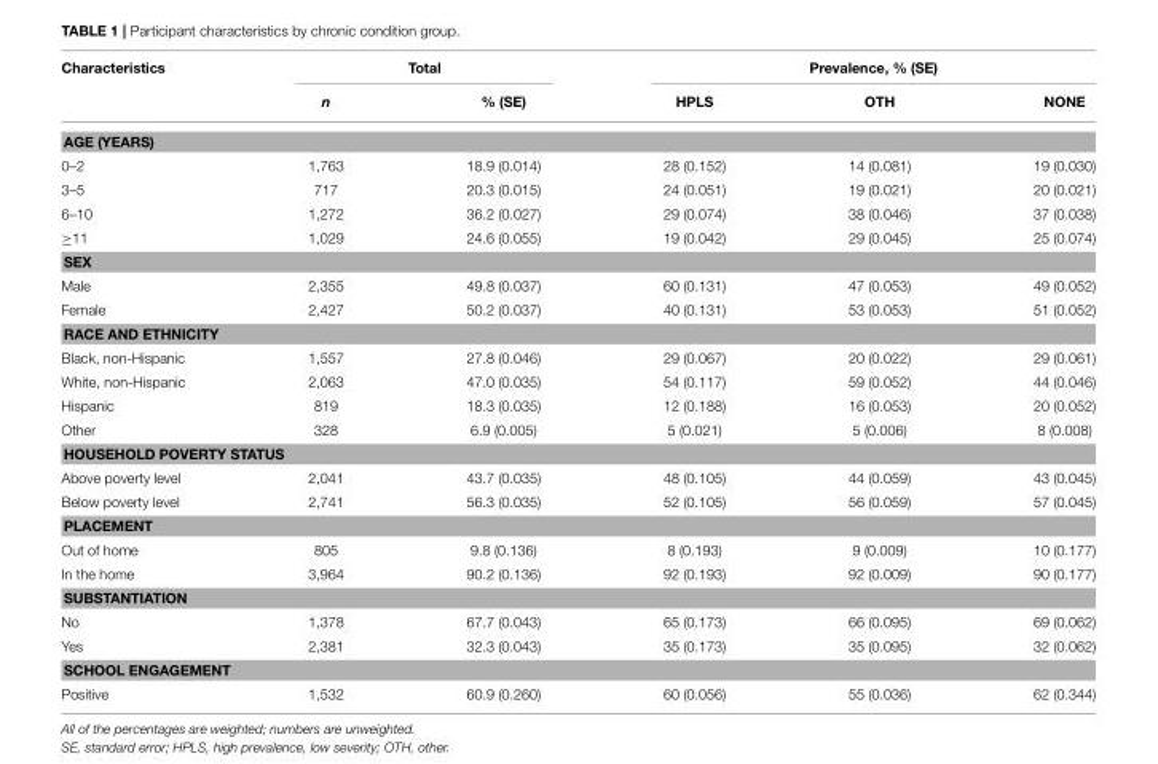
<table><thead><tr><td rowspan="2">Characteristics</td><td colspan="2">Total</td><td colspan="3">Prevalence, % (SE)</td></tr><tr><td>n</td><td>% (SE)</td><td>HPLS</td><td>OTH</td><td>NONE</td></tr></thead><tbody><tr><td colspan="6">AGE (YEARS)</td></tr><tr><td>0–2</td><td>1,763</td><td>18.9 (0.014)</td><td>28 (0.152)</td><td>14 (0.081)</td><td>19 (0.030)</td></tr><tr><td>3–5</td><td>717</td><td>20.3 (0.015)</td><td>24 (0.051)</td><td>19 (0.021)</td><td>20 (0.021)</td></tr><tr><td>6–10</td><td>1,272</td><td>36.2 (0.027)</td><td>29 (0.074)</td><td>38 (0.046)</td><td>37 (0.038)</td></tr><tr><td>≥11</td><td>1,029</td><td>24.6 (0.055)</td><td>19 (0.042)</td><td>29 (0.045)</td><td>25 (0.074)</td></tr><tr><td colspan="6">SEX</td></tr><tr><td>Male</td><td>2,355</td><td>49.8 (0.037)</td><td>60 (0.131)</td><td>47 (0.053)</td><td>49 (0.052)</td></tr><tr><td>Female</td><td>2,427</td><td>50.2 (0.037)</td><td>40 (0.131)</td><td>53 (0.053)</td><td>51 (0.052)</td></tr><tr><td colspan="6">RACE AND ETHNICITY</td></tr><tr><td>Black, non-Hispanic</td><td>1,557</td><td>27.8 (0.046)</td><td>29 (0.067)</td><td>20 (0.022)</td><td>29 (0.061)</td></tr><tr><td>White, non-Hispanic</td><td>2,063</td><td>47.0 (0.035)</td><td>54 (0.117)</td><td>59 (0.052)</td><td>44 (0.046)</td></tr><tr><td>Hispanic</td><td>819</td><td>18.3 (0.035)</td><td>12 (0.188)</td><td>16 (0.053)</td><td>20 (0.052)</td></tr><tr><td>Other</td><td>328</td><td>6.9 (0.005)</td><td>5 (0.021)</td><td>5 (0.006)</td><td>8 (0.008)</td></tr><tr><td colspan="6">HOUSEHOLD POVERTY STATUS</td></tr><tr><td>Above poverty level</td><td>2,041</td><td>43.7 (0.035)</td><td>48 (0.105)</td><td>44 (0.059)</td><td>43 (0.045)</td></tr><tr><td>Below poverty level</td><td>2,741</td><td>56.3 (0.035)</td><td>52 (0.105)</td><td>56 (0.059)</td><td>57 (0.045)</td></tr><tr><td colspan="6">PLACEMENT</td></tr><tr><td>Out of home</td><td>805</td><td>9.8 (0.136)</td><td>8 (0.193)</td><td>9 (0.009)</td><td>10 (0.177)</td></tr><tr><td>In the home</td><td>3,964</td><td>90.2 (0.136)</td><td>92 (0.193)</td><td>92 (0.009)</td><td>90 (0.177)</td></tr><tr><td colspan="6">SUBSTANTIATION</td></tr><tr><td>No</td><td>1,378</td><td>67.7 (0.043)</td><td>65 (0.173)</td><td>66 (0.095)</td><td>69 (0.062)</td></tr><tr><td>Yes</td><td>2,381</td><td>32.3 (0.043)</td><td>35 (0.173)</td><td>35 (0.095)</td><td>32 (0.062)</td></tr><tr><td colspan="6">SCHOOL ENGAGEMENT</td></tr><tr><td>Positive</td><td>1,532</td><td>60.9 (0.260)</td><td>60 (0.056)</td><td>55 (0.036)</td><td>62 (0.344)</td></tr></tbody></table>